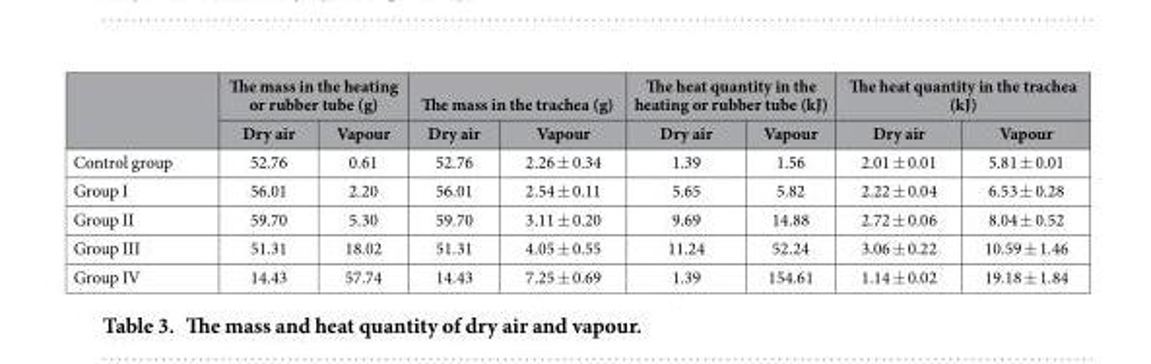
<table><thead><tr><td rowspan="2"></td><td colspan="2">The mass in the heating or rubber tube (g)</td><td colspan="2">The mass in the trachea (g)</td><td colspan="2">The heat quantity in the heating or rubber tube (kJ)</td><td colspan="2">The heat quantity in the trachea (kJ)</td></tr><tr><td>Dry air</td><td>Vapour</td><td>Dry air</td><td>Vapour</td><td>Dry air</td><td>Vapour</td><td>Dry air</td><td>Vapour</td></tr></thead><tbody><tr><td>Control group</td><td>52.76</td><td>0.61</td><td>52.76</td><td>2.26 ± 0.34</td><td>1.39</td><td>1.56</td><td>2.01 ± 0.01</td><td>5.81 ± 0.01</td></tr><tr><td>Group I</td><td>56.01</td><td>2.20</td><td>56.01</td><td>2.54 ± 0.11</td><td>5.65</td><td>5.82</td><td>2.22 ± 0.04</td><td>6.53 ± 0.28</td></tr><tr><td>Group II</td><td>59.70</td><td>5.30</td><td>59.70</td><td>3.11 ± 0.20</td><td>9.69</td><td>14.88</td><td>2.72 ± 0.06</td><td>8.04 ± 0.52</td></tr><tr><td>Group III</td><td>51.31</td><td>18.02</td><td>51.31</td><td>4.05 ± 0.55</td><td>11.24</td><td>52.24</td><td>3.06 ± 0.22</td><td>10.59 ± 1.46</td></tr><tr><td>Group IV</td><td>14.43</td><td>57.74</td><td>14.43</td><td>7.25 ± 0.69</td><td>1.39</td><td>154.61</td><td>1.14 ± 0.02</td><td>19.18 ± 1.84</td></tr></tbody></table>